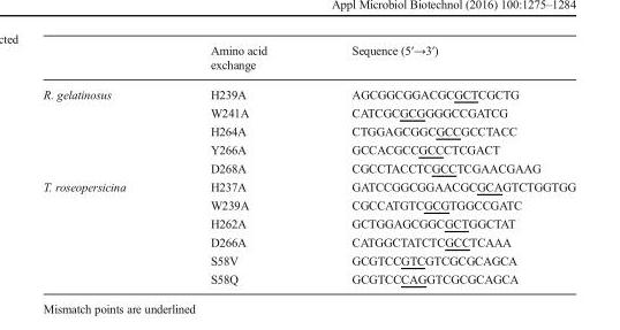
<table><thead><tr><td></td><td>Amino acid exchange</td><td>Sequence (5′→3′)</td></tr></thead><tbody><tr><td rowspan="5">R. gelatinosus</td><td>H239A</td><td>AGCGGCGGACGCGCTCGCTG</td></tr><tr><td>W241A</td><td>CATCGCGCGGGGCCGATCG</td></tr><tr><td>H264A</td><td>CTGGAGCGGCGCCGCCTACC</td></tr><tr><td>Y266A</td><td>GCCACGCCGCCCTCGACT</td></tr><tr><td>D268A</td><td>CGCCTACCTCGCCTCGAACGAAG</td></tr><tr><td rowspan="6">T. roseopersicina</td><td>H237A</td><td>GATCCGGCGGAACGCGCAGTCTGGTGG</td></tr><tr><td>W239A</td><td>CGCCATGTCGCGTGGCCGATC</td></tr><tr><td>H262A</td><td>GCTGGAGCGGCGCTGGCTAT</td></tr><tr><td>D266A</td><td>CATGGCTATCTCGCCTCAAA</td></tr><tr><td>S58V</td><td>GCGTCCGTCGTCGCGCAGCA</td></tr><tr><td>S58Q</td><td>GCGTCCCAGGTCGCGCAGCA</td></tr></tbody></table>